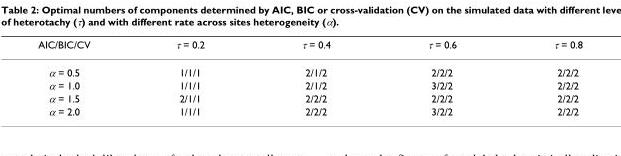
<table><thead><tr><td>AIC/BIC/CV</td><td>τ = 0.2</td><td>τ = 0.4</td><td>τ = 0.6</td><td>τ = 0.8</td></tr></thead><tbody><tr><td>α = 0.5</td><td>1/1/1</td><td>2/1/2</td><td>2/2/2</td><td>2/2/2</td></tr><tr><td>α = 1.0</td><td>1/1/1</td><td>2/1/2</td><td>3/2/2</td><td>2/2/2</td></tr><tr><td>α = 1.5</td><td>2/1/1</td><td>2/2/2</td><td>2/2/2</td><td>2/2/2</td></tr><tr><td>α = 2.0</td><td>1/1/1</td><td>2/2/2</td><td>3/2/2</td><td>2/2/2</td></tr></tbody></table>